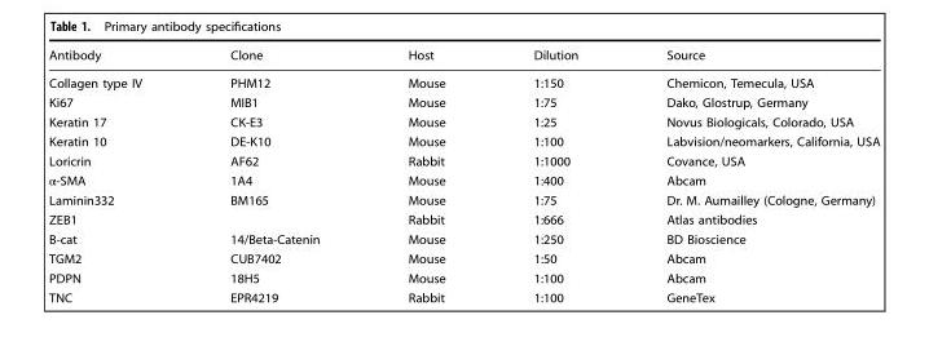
<table><thead><tr><td>Antibody</td><td>Clone</td><td>Host</td><td>Dilution</td><td>Source</td></tr></thead><tbody><tr><td>Collagen type IV</td><td>PHM12</td><td>Mouse</td><td>1:150</td><td>Chemicon, Temecula, USA</td></tr><tr><td>Ki67</td><td>MIB1</td><td>Mouse</td><td>1:75</td><td>Dako, Glostrup, Germany</td></tr><tr><td>Keratin 17</td><td>CK-E3</td><td>Mouse</td><td>1:25</td><td>Novus Biologicals, Colorado, USA</td></tr><tr><td>Keratin 10</td><td>DE-K10</td><td>Mouse</td><td>1:100</td><td>Labvision/neomarkers, California, USA</td></tr><tr><td>Loricrin</td><td>AF62</td><td>Rabbit</td><td>1:1000</td><td>Covance, USA</td></tr><tr><td>α-SMA</td><td>1A4</td><td>Mouse</td><td>1:400</td><td>Abcam</td></tr><tr><td>Laminin332</td><td>BM165</td><td>Mouse</td><td>1:75</td><td>Dr. M. Aumailley (Cologne, Germany)</td></tr><tr><td>ZEB1</td><td></td><td>Rabbit</td><td>1:666</td><td>Atlas antibodies</td></tr><tr><td>B-cat</td><td>14/Beta-Catenin</td><td>Mouse</td><td>1:250</td><td>BD Bioscience</td></tr><tr><td>TGM2</td><td>CUB7402</td><td>Mouse</td><td>1:50</td><td>Abcam</td></tr><tr><td>PDPN</td><td>18H5</td><td>Mouse</td><td>1:100</td><td>Abcam</td></tr><tr><td>TNC</td><td>EPR4219</td><td>Rabbit</td><td>1:100</td><td>GeneTex</td></tr></tbody></table>